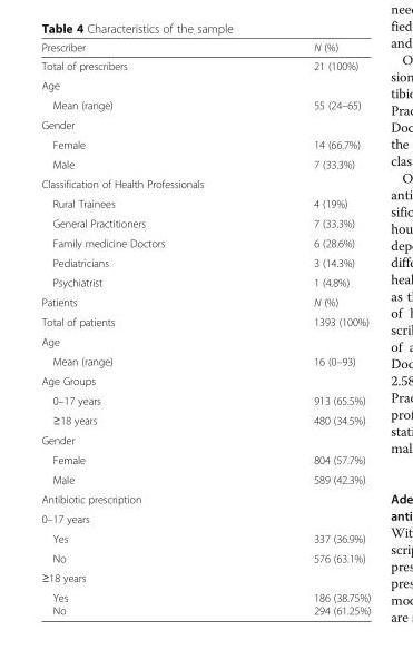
<table><thead><tr><td>Prescriber</td><td>N (%)</td></tr></thead><tbody><tr><td>Total of prescribers</td><td>21 (100%)</td></tr><tr><td colspan="2">Age</td></tr><tr><td>Mean (range)</td><td>55 (24–65)</td></tr><tr><td colspan="2">Gender</td></tr><tr><td>Female</td><td>14 (66.7%)</td></tr><tr><td>Male</td><td>7 (33.3%)</td></tr><tr><td colspan="2">Classification of Health Professionals</td></tr><tr><td>Rural Trainees</td><td>4 (19%)</td></tr><tr><td>General Practitioners</td><td>7 (33.3%)</td></tr><tr><td>Family medicine Doctors</td><td>6 (28.6%)</td></tr><tr><td>Pediatricians</td><td>3 (14.3%)</td></tr><tr><td>Psychiatrist</td><td>1 (4.8%)</td></tr><tr><td>Patients</td><td>N (%)</td></tr><tr><td>Total of patients</td><td>1393 (100%)</td></tr><tr><td colspan="2">Age</td></tr><tr><td>Mean (range)</td><td>16 (0–93)</td></tr><tr><td colspan="2">Age Groups</td></tr><tr><td>0–17 years</td><td>913 (65.5%)</td></tr><tr><td>≥18 years</td><td>480 (34.5%)</td></tr><tr><td colspan="2">Gender</td></tr><tr><td>Female</td><td>804 (57.7%)</td></tr><tr><td>Male</td><td>589 (42.3%)</td></tr><tr><td colspan="2">Antibiotic prescription</td></tr><tr><td colspan="2">0–17 years</td></tr><tr><td>Yes</td><td>337 (36.9%)</td></tr><tr><td>No</td><td>576 (63.1%)</td></tr><tr><td colspan="2">≥18 years</td></tr><tr><td>Yes No</td><td>186 (38.75%) 294 (61.25%)</td></tr></tbody></table>